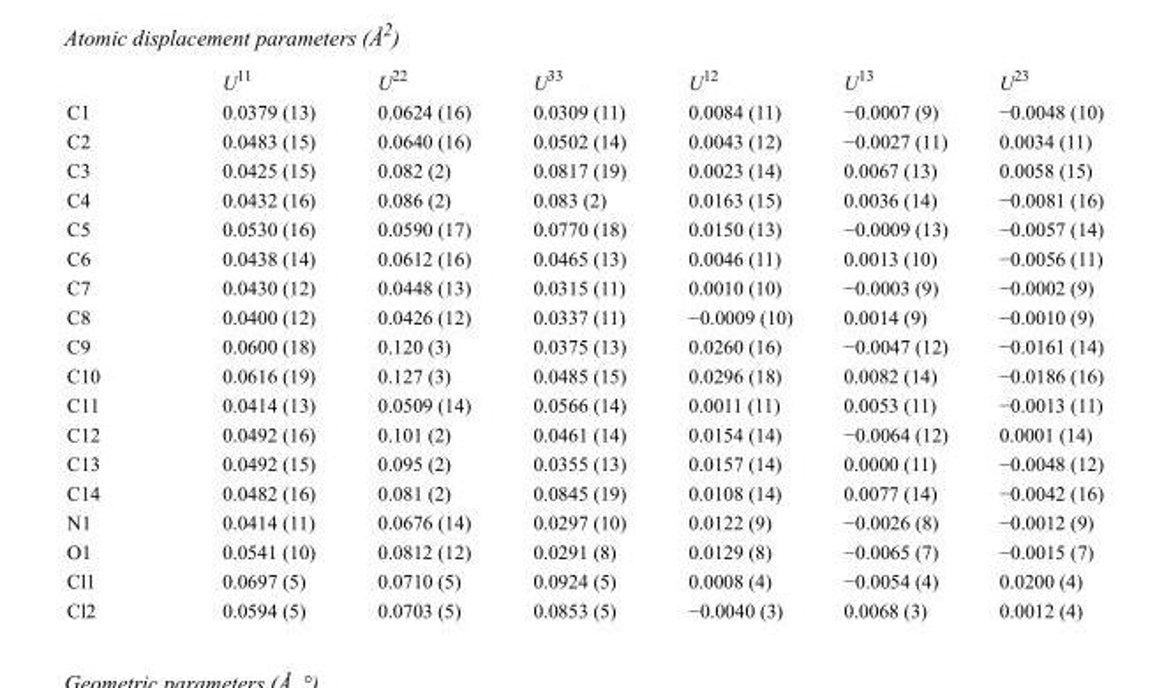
<table><thead><tr><td></td><td>U<sup>11</sup></td><td>U<sup>22</sup></td><td>U<sup>33</sup></td><td>U<sup>12</sup></td><td>U<sup>13</sup></td><td>U<sup>23</sup></td></tr></thead><tbody><tr><td>C1</td><td>0.0379 (13)</td><td>0.0624 (16)</td><td>0.0309 (11)</td><td>0.0084 (11)</td><td>−0.0007 (9)</td><td>−0.0048 (10)</td></tr><tr><td>C2</td><td>0.0483 (15)</td><td>0.0640 (16)</td><td>0.0502 (14)</td><td>0.0043 (12)</td><td>−0.0027 (11)</td><td>0.0034 (11)</td></tr><tr><td>C3</td><td>0.0425 (15)</td><td>0.082 (2)</td><td>0.0817 (19)</td><td>0.0023 (14)</td><td>0.0067 (13)</td><td>0.0058 (15)</td></tr><tr><td>C4</td><td>0.0432 (16)</td><td>0.086 (2)</td><td>0.083 (2)</td><td>0.0163 (15)</td><td>0.0036 (14)</td><td>−0.0081 (16)</td></tr><tr><td>C5</td><td>0.0530 (16)</td><td>0.0590 (17)</td><td>0.0770 (18)</td><td>0.0150 (13)</td><td>−0.0009 (13)</td><td>−0.0057 (14)</td></tr><tr><td>C6</td><td>0.0438 (14)</td><td>0.0612 (16)</td><td>0.0465 (13)</td><td>0.0046 (11)</td><td>0.0013 (10)</td><td>−0.0056 (11)</td></tr><tr><td>C7</td><td>0.0430 (12)</td><td>0.0448 (13)</td><td>0.0315 (11)</td><td>0.0010 (10)</td><td>−0.0003 (9)</td><td>−0.0002 (9)</td></tr><tr><td>C8</td><td>0.0400 (12)</td><td>0.0426 (12)</td><td>0.0337 (11)</td><td>−0.0009 (10)</td><td>0.0014 (9)</td><td>−0.0010 (9)</td></tr><tr><td>C9</td><td>0.0600 (18)</td><td>0.120 (3)</td><td>0.0375 (13)</td><td>0.0260 (16)</td><td>−0.0047 (12)</td><td>−0.0161 (14)</td></tr><tr><td>C10</td><td>0.0616 (19)</td><td>0.127 (3)</td><td>0.0485 (15)</td><td>0.0296 (18)</td><td>0.0082 (14)</td><td>−0.0186 (16)</td></tr><tr><td>C11</td><td>0.0414 (13)</td><td>0.0509 (14)</td><td>0.0566 (14)</td><td>0.0011 (11)</td><td>0.0053 (11)</td><td>−0.0013 (11)</td></tr><tr><td>C12</td><td>0.0492 (16)</td><td>0.101 (2)</td><td>0.0461 (14)</td><td>0.0154 (14)</td><td>−0.0064 (12)</td><td>0.0001 (14)</td></tr><tr><td>C13</td><td>0.0492 (15)</td><td>0.095 (2)</td><td>0.0355 (13)</td><td>0.0157 (14)</td><td>0.0000 (11)</td><td>−0.0048 (12)</td></tr><tr><td>C14</td><td>0.0482 (16)</td><td>0.081 (2)</td><td>0.0845 (19)</td><td>0.0108 (14)</td><td>0.0077 (14)</td><td>−0.0042 (16)</td></tr><tr><td>N1</td><td>0.0414 (11)</td><td>0.0676 (14)</td><td>0.0297 (10)</td><td>0.0122 (9)</td><td>−0.0026 (8)</td><td>−0.0012 (9)</td></tr><tr><td>O1</td><td>0.0541 (10)</td><td>0.0812 (12)</td><td>0.0291 (8)</td><td>0.0129 (8)</td><td>−0.0065 (7)</td><td>−0.0015 (7)</td></tr><tr><td>Cl1</td><td>0.0697 (5)</td><td>0.0710 (5)</td><td>0.0924 (5)</td><td>0.0008 (4)</td><td>−0.0054 (4)</td><td>0.0200 (4)</td></tr><tr><td>Cl2</td><td>0.0594 (5)</td><td>0.0703 (5)</td><td>0.0853 (5)</td><td>−0.0040 (3)</td><td>0.0068 (3)</td><td>0.0012 (4)</td></tr></tbody></table>